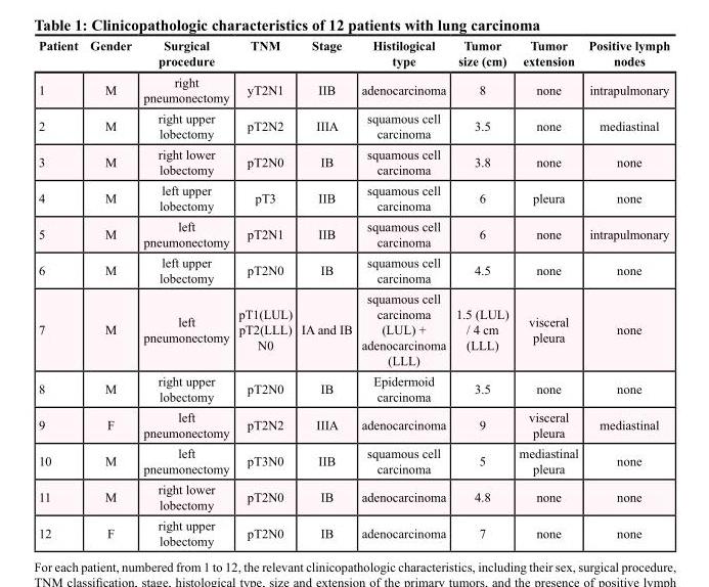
<table><thead><tr><td>Patient</td><td>Gender</td><td>Surgical procedure</td><td>TNM</td><td>Stage</td><td>Histilogical type</td><td>Tumor size (cm)</td><td>Tumor extension</td><td>Positive lymph nodes</td></tr></thead><tbody><tr><td>1</td><td>M</td><td>right pneumonectomy</td><td>yT2N1</td><td>IIB</td><td>adenocarcinoma</td><td>8</td><td>none</td><td>intrapulmonary</td></tr><tr><td>2</td><td>M</td><td>right upper lobectomy</td><td>pT2N2</td><td>IIIA</td><td>squamous cell carcinoma</td><td>3.5</td><td>none</td><td>mediastinal</td></tr><tr><td>3</td><td>M</td><td>right lower lobectomy</td><td>pT2N0</td><td>IB</td><td>squamous cell carcinoma</td><td>3.8</td><td>none</td><td>none</td></tr><tr><td>4</td><td>M</td><td>left upper lobectomy</td><td>pT3</td><td>IIB</td><td>squamous cell carcinoma</td><td>6</td><td>pleura</td><td>none</td></tr><tr><td>5</td><td>M</td><td>left pneumonectomy</td><td>pT2N1</td><td>IIB</td><td>squamous cell carcinoma</td><td>6</td><td>none</td><td>intrapulmonary</td></tr><tr><td>6</td><td>M</td><td>left upper lobectomy</td><td>pT2N0</td><td>IB</td><td>squamous cell carcinoma</td><td>4.5</td><td>none</td><td>none</td></tr><tr><td>7</td><td>M</td><td>left pneumonectomy</td><td>pT1(LUL) pT2(LLL) N0</td><td>IA and IB</td><td>squamous cell carcinoma (LUL) + adenocarcinoma (LLL)</td><td>1.5 (LUL) / 4 cm (LLL)</td><td>visceral pleura</td><td>none</td></tr><tr><td>8</td><td>M</td><td>right upper lobectomy</td><td>pT2N0</td><td>IB</td><td>Epidermoid carcinoma</td><td>3.5</td><td>none</td><td>none</td></tr><tr><td>9</td><td>F</td><td>left pneumonectomy</td><td>pT2N2</td><td>IIIA</td><td>adenocarcinoma</td><td>9</td><td>visceral pleura</td><td>mediastinal</td></tr><tr><td>10</td><td>M</td><td>left pneumonectomy</td><td>pT3N0</td><td>IIB</td><td>squamous cell carcinoma</td><td>5</td><td>mediastinal pleura</td><td>none</td></tr><tr><td>11</td><td>M</td><td>right lower lobectomy</td><td>pT2N0</td><td>IB</td><td>adenocarcinoma</td><td>4.8</td><td>none</td><td>none</td></tr><tr><td>12</td><td>F</td><td>right upper lobectomy</td><td>pT2N0</td><td>IB</td><td>adenocarcinoma</td><td>7</td><td>none</td><td>none</td></tr></tbody></table>